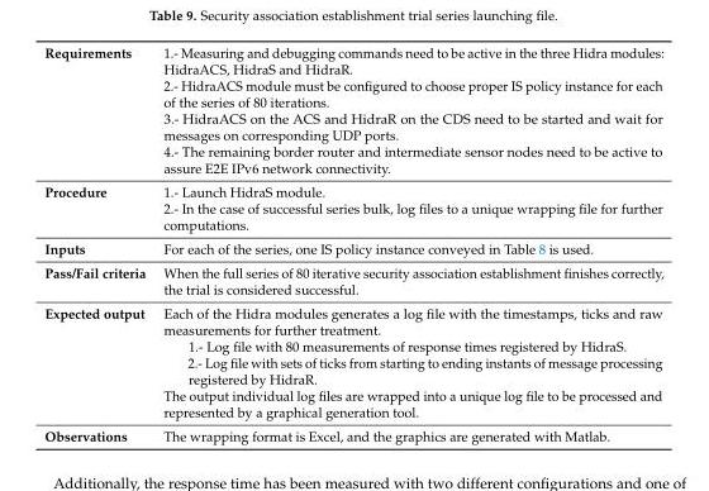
<table><tbody><tr><td>Requirements</td><td>1.- Measuring and debugging commands need to be active in the three Hidra modules: HidraACS, HidraS and HidraR. 2.- HidraACS module must be configured to choose proper IS policy instance for each of the series of 80 iterations. 3.- HidraACS on the ACS and HidraR on the CDS need to be started and wait for messages on corresponding UDP ports. 4.- The remaining border router and intermediate sensor nodes need to be active to assure E2E IPv6 network connectivity.</td></tr><tr><td>Procedure</td><td>1.- Launch HidraS module. 2.- In the case of successful series bulk, log files to a unique wrapping file for further computations.</td></tr><tr><td>Inputs</td><td>For each of the series, one IS policy instance conveyed in Table 8 is used.</td></tr><tr><td>Pass/Fail criteria</td><td>When the full series of 80 iterative security association establishment finishes correctly, the trial is considered successful.</td></tr><tr><td>Expected output</td><td>Each of the Hidra modules generates a log file with the timestamps, ticks and raw measurements for further treatment. 1.- Log file with 80 measurements of response times registered by HidraS. 2.- Log file with sets of ticks from starting to ending instants of message processing registered by HidraR. The output individual log files are wrapped into a unique log file to be processed and represented by a graphical generation tool.</td></tr><tr><td>Observations</td><td>The wrapping format is Excel, and the graphics are generated with Matlab.</td></tr></tbody></table>